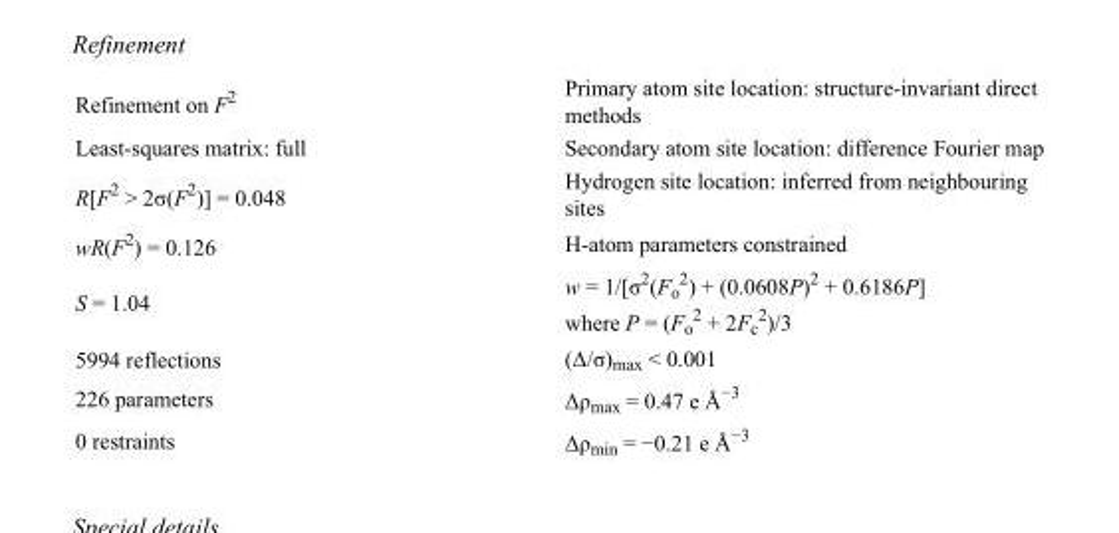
<table><tbody><tr><td>Refinement on F<sup>2</sup></td><td>Primary atom site location: structure-invariant direct methods</td></tr><tr><td>Least-squares matrix: full</td><td>Secondary atom site location: difference Fourier map</td></tr><tr><td>R[F<sup>2</sup> &gt; 2σ(F<sup>2</sup>)] = 0.048</td><td>Hydrogen site location: inferred from neighbouring sites</td></tr><tr><td>wR(F<sup>2</sup>) = 0.126</td><td>H-atom parameters constrained</td></tr><tr><td>S = 1.04</td><td>w = 1/[σ<sup>2</sup>(F<sub>o</sub> <sup>2</sup>) + (0.0608P)<sup>2</sup> + 0.6186P] where P = (F<sub>o</sub> <sup>2</sup> + 2F<sub>c</sub> <sup>2</sup>)/3</td></tr><tr><td>5994 reflections</td><td>(Δ/σ)<sub>max</sub> &lt; 0.001</td></tr><tr><td>226 parameters</td><td>Δρ<sub>max</sub> = 0.47 e Å<sup>−3</sup></td></tr><tr><td>0 restraints</td><td>Δρ<sub>min</sub> = −0.21 e Å<sup>−3</sup></td></tr></tbody></table>